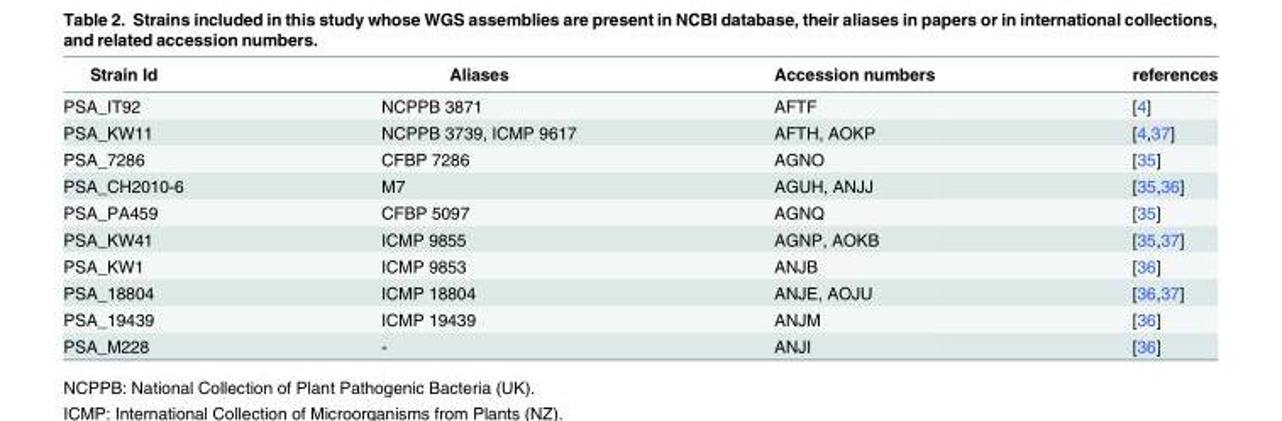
<table><thead><tr><td>Strain Id</td><td>Aliases</td><td>Accession numbers</td><td>references</td></tr></thead><tbody><tr><td>PSA_IT92</td><td>NCPPB 3871</td><td>AFTF</td><td>[4]</td></tr><tr><td>PSA_KW11</td><td>NCPPB 3739, ICMP 9617</td><td>AFTH, AOKP</td><td>[4,37]</td></tr><tr><td>PSA_7286</td><td>CFBP 7286</td><td>AGNO</td><td>[35]</td></tr><tr><td>PSA_CH2010-6</td><td>M7</td><td>AGUH, ANJJ</td><td>[35,36]</td></tr><tr><td>PSA_PA459</td><td>CFBP 5097</td><td>AGNQ</td><td>[35]</td></tr><tr><td>PSA_KW41</td><td>ICMP 9855</td><td>AGNP, AOKB</td><td>[35,37]</td></tr><tr><td>PSA_KW1</td><td>ICMP 9853</td><td>ANJB</td><td>[36]</td></tr><tr><td>PSA_18804</td><td>ICMP 18804</td><td>ANJE, AOJU</td><td>[36,37]</td></tr><tr><td>PSA_19439</td><td>ICMP 19439</td><td>ANJM</td><td>[36]</td></tr><tr><td>PSA_M228</td><td>-</td><td>ANJI</td><td>[36]</td></tr></tbody></table>